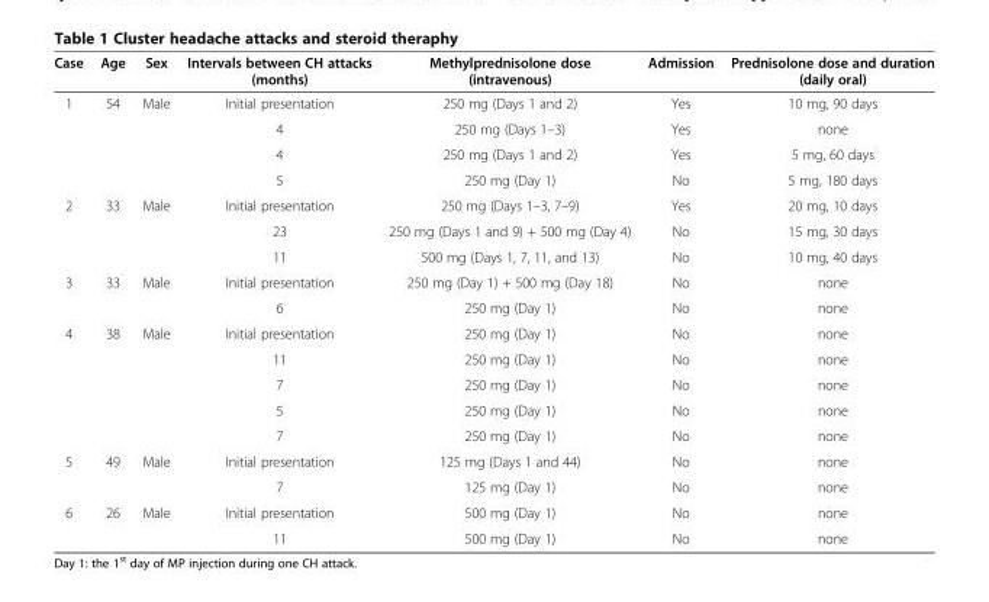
<table><thead><tr><td>Case</td><td>Age</td><td>Sex</td><td>Intervals between CH attacks (months)</td><td>Methylprednisolone dose (intravenous)</td><td>Admission</td><td>Prednisolone dose and duration (daily oral)</td></tr></thead><tbody><tr><td rowspan="4">1</td><td rowspan="4">54</td><td rowspan="4">Male</td><td>Initial presentation</td><td>250 mg (Days 1 and 2)</td><td>Yes</td><td>10 mg, 90 days</td></tr><tr><td>4</td><td>250 mg (Days 1–3)</td><td>Yes</td><td>none</td></tr><tr><td>4</td><td>250 mg (Days 1 and 2)</td><td>Yes</td><td>5 mg, 60 days</td></tr><tr><td>5</td><td>250 mg (Day 1)</td><td>No</td><td>5 mg, 180 days</td></tr><tr><td rowspan="3">2</td><td>33</td><td>Male</td><td>Initial presentation</td><td>250 mg (Days 1–3, 7–9)</td><td>Yes</td><td>20 mg, 10 days</td></tr><tr><td rowspan="2"></td><td rowspan="2"></td><td>23</td><td>250 mg (Days 1 and 9) + 500 mg (Day 4)</td><td>No</td><td>15 mg, 30 days</td></tr><tr><td>11</td><td>500 mg (Days 1, 7, 11, and 13)</td><td>No</td><td>10 mg, 40 days</td></tr><tr><td rowspan="2">3</td><td rowspan="2">33</td><td rowspan="2">Male</td><td>Initial presentation</td><td>250 mg (Day 1) + 500 mg (Day 18)</td><td>No</td><td>none</td></tr><tr><td>6</td><td>250 mg (Day 1)</td><td>No</td><td>none</td></tr><tr><td rowspan="5">4</td><td rowspan="5">38</td><td rowspan="5">Male</td><td>Initial presentation</td><td>250 mg (Day 1)</td><td>No</td><td>none</td></tr><tr><td>11</td><td>250 mg (Day 1)</td><td>No</td><td>none</td></tr><tr><td>7</td><td>250 mg (Day 1)</td><td>No</td><td>none</td></tr><tr><td>5</td><td>250 mg (Day 1)</td><td>No</td><td>none</td></tr><tr><td>7</td><td>250 mg (Day 1)</td><td>No</td><td>none</td></tr><tr><td rowspan="2">5</td><td rowspan="2">49</td><td rowspan="2">Male</td><td>Initial presentation</td><td>125 mg (Days 1 and 44)</td><td>No</td><td>none</td></tr><tr><td>7</td><td>125 mg (Day 1)</td><td>No</td><td>none</td></tr><tr><td rowspan="2">6</td><td>26</td><td>Male</td><td>Initial presentation</td><td>500 mg (Day 1)</td><td>No</td><td>none</td></tr><tr><td></td><td></td><td>11</td><td>500 mg (Day 1)</td><td>No</td><td>none</td></tr></tbody></table>